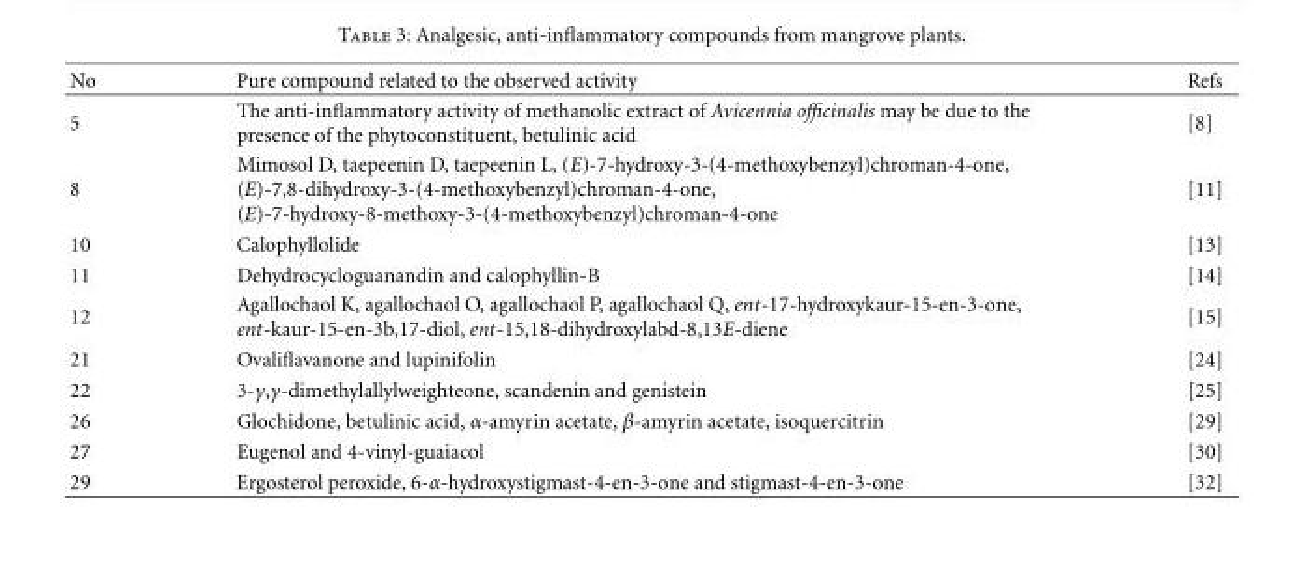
<table><thead><tr><td>No</td><td>Pure compound related to the observed activity</td><td>Refs</td></tr></thead><tbody><tr><td>5</td><td>The anti-inflammatory activity of methanolic extract of Avicennia officinalis may be due to the presence of the phytoconstituent, betulinic acid</td><td>[8]</td></tr><tr><td>8</td><td>Mimosol D, taepeenin D, taepeenin L, (E)-7-hydroxy-3-(4-methoxybenzyl)chroman-4-one, (E)-7,8-dihydroxy-3-(4-methoxybenzyl)chroman-4-one, (E)-7-hydroxy-8-methoxy-3-(4-methoxybenzyl)chroman-4-one</td><td>[11]</td></tr><tr><td>10</td><td>Calophyllolide</td><td>[13]</td></tr><tr><td>11</td><td>Dehydrocycloguanandin and calophyllin-B</td><td>[14]</td></tr><tr><td>12</td><td>Agallochaol K, agallochaol O, agallochaol P, agallochaol Q, ent-17-hydroxykaur-15-en-3-one, ent-kaur-15-en-3b,17-diol, ent-15,18-dihydroxylabd-8,13E-diene</td><td>[15]</td></tr><tr><td>21</td><td>Ovaliflavanone and lupinifolin</td><td>[24]</td></tr><tr><td>22</td><td>3-γ,γ-dimethylallylweighteone, scandenin and genistein</td><td>[25]</td></tr><tr><td>26</td><td>Glochidone, betulinic acid, α-amyrin acetate, β-amyrin acetate, isoquercitrin</td><td>[29]</td></tr><tr><td>27</td><td>Eugenol and 4-vinyl-guaiacol</td><td>[30]</td></tr><tr><td>29</td><td>Ergosterol peroxide, 6-α-hydroxystigmast-4-en-3-one and stigmast-4-en-3-one</td><td>[32]</td></tr></tbody></table>